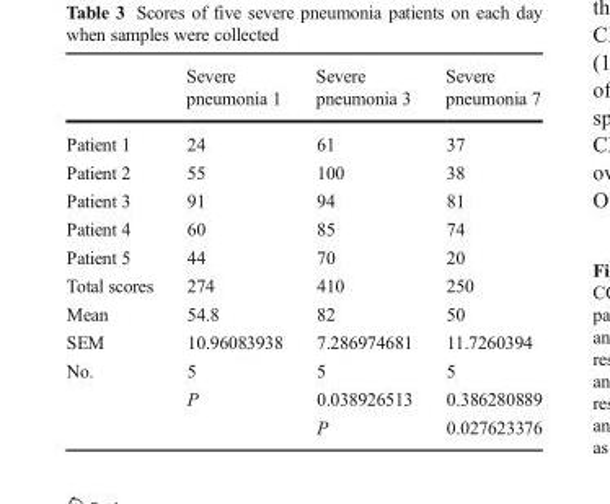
<table><thead><tr><td></td><td>Severe pneumonia 1</td><td>Severe pneumonia 3</td><td>Severe pneumonia 7</td></tr></thead><tbody><tr><td>Patient 1</td><td>24</td><td>61</td><td>37</td></tr><tr><td>Patient 2</td><td>55</td><td>100</td><td>38</td></tr><tr><td>Patient 3</td><td>91</td><td>94</td><td>81</td></tr><tr><td>Patient 4</td><td>60</td><td>85</td><td>74</td></tr><tr><td>Patient 5</td><td>44</td><td>70</td><td>20</td></tr><tr><td>Total scores</td><td>274</td><td>410</td><td>250</td></tr><tr><td>Mean</td><td>54.8</td><td>82</td><td>50</td></tr><tr><td>SEM</td><td>10.96083938</td><td>7.286974681</td><td>11.7260394</td></tr><tr><td rowspan="3">No.</td><td>5</td><td>5</td><td>5</td></tr><tr><td>P</td><td>0.038926513</td><td>0.386280889</td></tr><tr><td></td><td>P</td><td>0.027623376</td></tr></tbody></table>